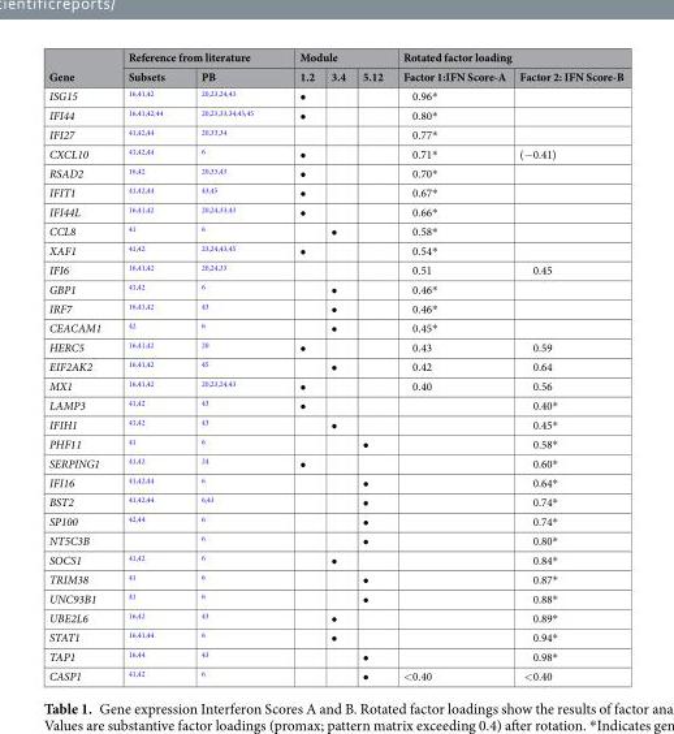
<table><thead><tr><td rowspan="2">Gene</td><td colspan="2">Reference from literature</td><td colspan="3">Module</td><td colspan="2">Rotated factor loading</td></tr><tr><td>Subsets</td><td>PB</td><td>1.2</td><td>3.4</td><td>5.12</td><td>Factor 1:IFN Score-A</td><td>Factor 2: IFN Score-B</td></tr></thead><tbody><tr><td>ISG15</td><td><sup>16,41,42</sup></td><td><sup>20,23,24,43</sup></td><td>•</td><td></td><td></td><td>0.96*</td><td></td></tr><tr><td>IFI44</td><td><sup>16,41,42,44</sup></td><td><sup>20,23,33,34,43,45</sup></td><td>•</td><td></td><td></td><td>0.80*</td><td></td></tr><tr><td>IFI27</td><td><sup>41,42,44</sup></td><td><sup>20,33,34</sup></td><td></td><td></td><td></td><td>0.77*</td><td></td></tr><tr><td>CXCL10</td><td><sup>41,42,44</sup></td><td><sup>6</sup></td><td>•</td><td></td><td></td><td>0.71*</td><td>(−0.41)</td></tr><tr><td>RSAD2</td><td><sup>16,42</sup></td><td><sup>20,33,43</sup></td><td>•</td><td></td><td></td><td>0.70*</td><td></td></tr><tr><td>IFIT1</td><td><sup>41,42,44</sup></td><td><sup>43,45</sup></td><td>•</td><td></td><td></td><td>0.67*</td><td></td></tr><tr><td>IFI44L</td><td><sup>16,41,42</sup></td><td><sup>20,24,33,43</sup></td><td>•</td><td></td><td></td><td>0.66*</td><td></td></tr><tr><td>CCL8</td><td><sup>41</sup></td><td><sup>6</sup></td><td></td><td>•</td><td></td><td>0.58*</td><td></td></tr><tr><td>XAF1</td><td><sup>41,42</sup></td><td><sup>23,24,43,45</sup></td><td>•</td><td></td><td></td><td>0.54*</td><td></td></tr><tr><td>IFI6</td><td><sup>16,41,42</sup></td><td><sup>20,24,33</sup></td><td></td><td></td><td></td><td>0.51</td><td>0.45</td></tr><tr><td>GBP1</td><td><sup>41,42</sup></td><td><sup>6</sup></td><td></td><td>•</td><td></td><td>0.46*</td><td></td></tr><tr><td>IRF7</td><td><sup>16,41,42</sup></td><td><sup>43</sup></td><td></td><td>•</td><td></td><td>0.46*</td><td></td></tr><tr><td>CEACAM1</td><td><sup>42</sup></td><td><sup>6</sup></td><td></td><td>•</td><td></td><td>0.45*</td><td></td></tr><tr><td>HERC5</td><td><sup>16,41,42</sup></td><td><sup>20</sup></td><td>•</td><td></td><td></td><td>0.43</td><td>0.59</td></tr><tr><td>EIF2AK2</td><td><sup>16,41,42</sup></td><td><sup>45</sup></td><td></td><td>•</td><td></td><td>0.42</td><td>0.64</td></tr><tr><td>MX1</td><td><sup>16,41,42</sup></td><td><sup>20,23,24,43</sup></td><td>•</td><td></td><td></td><td>0.40</td><td>0.56</td></tr><tr><td>LAMP3</td><td><sup>41,42</sup></td><td><sup>43</sup></td><td>•</td><td></td><td></td><td></td><td>0.40*</td></tr><tr><td>IFIH1</td><td><sup>41,42</sup></td><td><sup>43</sup></td><td></td><td>•</td><td></td><td></td><td>0.45*</td></tr><tr><td>PHF11</td><td><sup>41</sup></td><td><sup>6</sup></td><td></td><td></td><td>•</td><td></td><td>0.58*</td></tr><tr><td>SERPING1</td><td><sup>41,42</sup></td><td><sup>24</sup></td><td>•</td><td></td><td></td><td></td><td>0.60*</td></tr><tr><td>IFI16</td><td><sup>41,42,44</sup></td><td><sup>6</sup></td><td></td><td></td><td>•</td><td></td><td>0.64*</td></tr><tr><td>BST2</td><td><sup>41,42,44</sup></td><td><sup>6,43</sup></td><td></td><td></td><td>•</td><td></td><td>0.74*</td></tr><tr><td>SP100</td><td><sup>42,44</sup></td><td><sup>6</sup></td><td></td><td></td><td>•</td><td></td><td>0.74*</td></tr><tr><td>NT5C3B</td><td></td><td><sup>6</sup></td><td></td><td></td><td>•</td><td></td><td>0.80*</td></tr><tr><td>SOCS1</td><td><sup>41,42</sup></td><td><sup>6</sup></td><td></td><td>•</td><td></td><td></td><td>0.84*</td></tr><tr><td>TRIM38</td><td><sup>41</sup></td><td><sup>6</sup></td><td></td><td></td><td>•</td><td></td><td>0.87*</td></tr><tr><td>UNC93B1</td><td><sup>41</sup></td><td><sup>6</sup></td><td></td><td></td><td>•</td><td></td><td>0.88*</td></tr><tr><td>UBE2L6</td><td><sup>16,42</sup></td><td><sup>43</sup></td><td></td><td>•</td><td></td><td></td><td>0.89*</td></tr><tr><td>STAT1</td><td><sup>16,41,44</sup></td><td><sup>6</sup></td><td></td><td>•</td><td></td><td></td><td>0.94*</td></tr><tr><td>TAP1</td><td><sup>16,44</sup></td><td><sup>43</sup></td><td></td><td></td><td>•</td><td></td><td>0.98*</td></tr><tr><td>CASP1</td><td><sup>41,42</sup></td><td><sup>6</sup></td><td></td><td></td><td>•</td><td>&lt;0.40</td><td>&lt;0.40</td></tr></tbody></table>